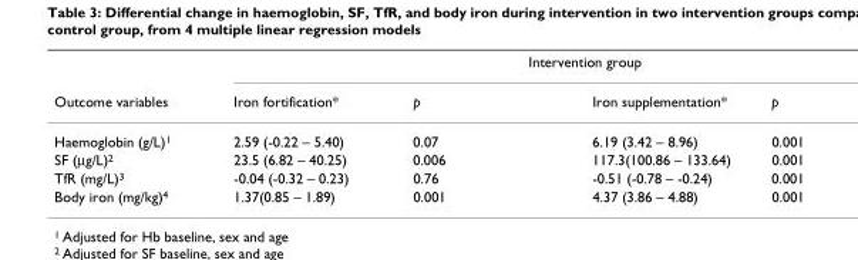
<table><thead><tr><td rowspan="2">Outcome variables</td><td colspan="4">Intervention group</td></tr><tr><td>Iron fortification*</td><td>p</td><td>Iron supplementation*</td><td>p</td></tr></thead><tbody><tr><td>Haemoglobin (g/L)<sup>1</sup></td><td>2.59 (-0.22 – 5.40)</td><td>0.07</td><td>6.19 (3.42 – 8.96)</td><td>0.001</td></tr><tr><td>SF (μg/L)<sup>2</sup></td><td>23.5 (6.82 – 40.25)</td><td>0.006</td><td>117.3(100.86 – 133.64)</td><td>0.001</td></tr><tr><td>TfR (mg/L)<sup>3</sup></td><td>-0.04 (-0.32 – 0.23)</td><td>0.76</td><td>-0.51 (-0.78 – -0.24)</td><td>0.001</td></tr><tr><td>Body iron (mg/kg)<sup>4</sup></td><td>1.37(0.85 – 1.89)</td><td>0.001</td><td>4.37 (3.86 – 4.88)</td><td>0.001</td></tr></tbody></table>